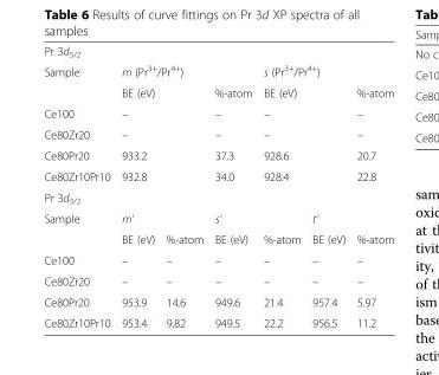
<table><tbody><tr><td colspan="7">Pr 3d<sub>5/2</sub></td></tr><tr><td rowspan="2">Sample</td><td colspan="3">m (Pr<sup>3+</sup>/Pr<sup>4+</sup>)</td><td colspan="3">s (Pr<sup>3+</sup>/Pr<sup>4+</sup>)</td></tr><tr><td colspan="2">BE (eV)</td><td>%-atom</td><td colspan="2">BE (eV)</td><td>%-atom</td></tr><tr><td>Ce100</td><td colspan="2">–</td><td>–</td><td colspan="2">–</td><td>–</td></tr><tr><td>Ce80Zr20</td><td colspan="2">–</td><td>–</td><td colspan="2">–</td><td>–</td></tr><tr><td>Ce80Pr20</td><td colspan="2">933.2</td><td>37.3</td><td colspan="2">928.6</td><td>20.7</td></tr><tr><td>Ce80Zr10Pr10</td><td colspan="2">932.8</td><td>34.0</td><td colspan="2">928.4</td><td>22.8</td></tr><tr><td colspan="7">Pr 3d<sub>3/2</sub></td></tr><tr><td rowspan="2">Sample</td><td colspan="2">m’</td><td colspan="2">s’</td><td colspan="2">t’</td></tr><tr><td>BE (eV)</td><td>%-atom</td><td>BE (eV)</td><td>%-atom</td><td>BE (eV)</td><td>%-atom</td></tr><tr><td>Ce100</td><td>–</td><td>–</td><td>–</td><td>–</td><td>–</td><td>–</td></tr><tr><td>Ce80Zr20</td><td>–</td><td>–</td><td>–</td><td>–</td><td>–</td><td>–</td></tr><tr><td>Ce80Pr20</td><td>953.9</td><td>14.6</td><td>949.6</td><td>21.4</td><td>957.4</td><td>5.97</td></tr><tr><td>Ce80Zr10Pr10</td><td>953.4</td><td>9.82</td><td>949.5</td><td>22.2</td><td>956.5</td><td>11.2</td></tr></tbody></table>